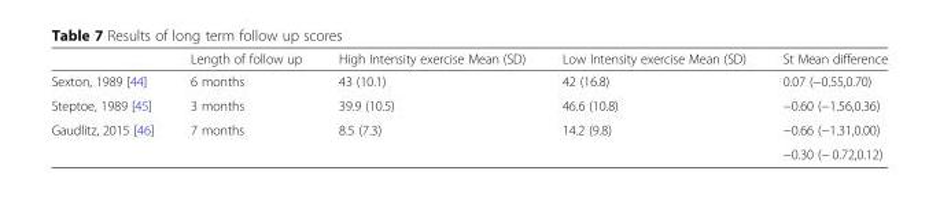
<table><thead><tr><td></td><td>Length of follow up</td><td>High Intensity exercise Mean (SD)</td><td>Low Intensity exercise Mean (SD)</td><td>St Mean difference</td></tr></thead><tbody><tr><td>Sexton, 1989 [44]</td><td>6 months</td><td>43 (10.1)</td><td>42 (16.8)</td><td>0.07 (−0.55,0.70)</td></tr><tr><td>Steptoe, 1989 [45]</td><td>3 months</td><td>39.9 (10.5)</td><td>46.6 (10.8)</td><td>−0.60 (−1.56,0.36)</td></tr><tr><td rowspan="2">Gaudlitz, 2015 [46]</td><td>7 months</td><td>8.5 (7.3)</td><td>14.2 (9.8)</td><td>−0.66 (−1.31,0.00)</td></tr><tr><td></td><td></td><td></td><td>−0.30 (− 0.72,0.12)</td></tr></tbody></table>